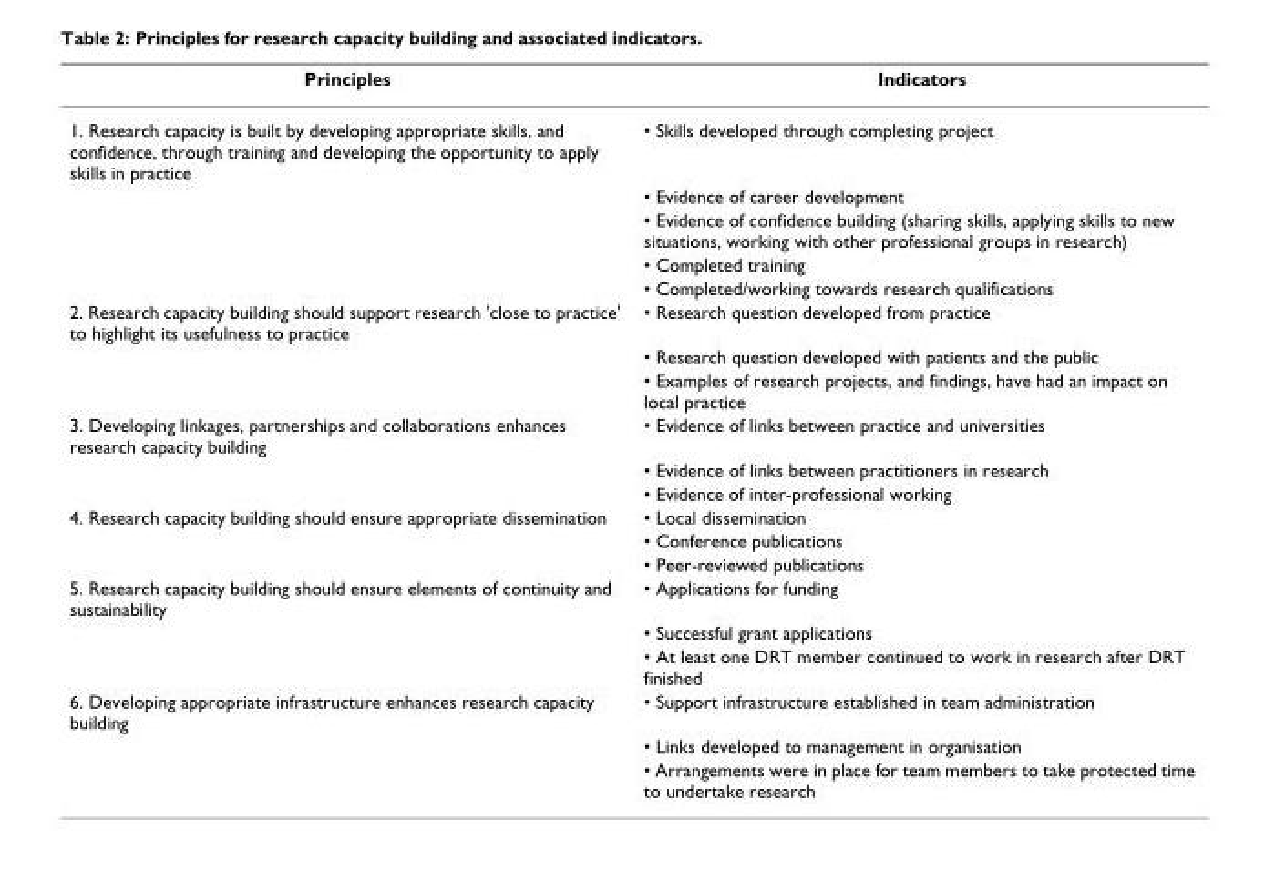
<table><thead><tr><td>Principles</td><td>Indicators</td></tr></thead><tbody><tr><td rowspan="5">1. Research capacity is built by developing appropriate skills, and confidence, through training and developing the opportunity to apply skills in practice</td><td>• Skills developed through completing project</td></tr><tr><td>• Evidence of career development</td></tr><tr><td>• Evidence of confidence building (sharing skills, applying skills to new situations, working with other professional groups in research)</td></tr><tr><td>• Completed training</td></tr><tr><td>• Completed/working towards research qualifications</td></tr><tr><td rowspan="3">2. Research capacity building should support research &#x27;close to practice&#x27; to highlight its usefulness to practice</td><td>• Research question developed from practice</td></tr><tr><td>• Research question developed with patients and the public</td></tr><tr><td>• Examples of research projects, and findings, have had an impact on local practice</td></tr><tr><td rowspan="3">3. Developing linkages, partnerships and collaborations enhances research capacity building</td><td>• Evidence of links between practice and universities</td></tr><tr><td>• Evidence of links between practitioners in research</td></tr><tr><td>• Evidence of inter-professional working</td></tr><tr><td rowspan="3">4. Research capacity building should ensure appropriate dissemination</td><td>• Local dissemination</td></tr><tr><td>• Conference publications</td></tr><tr><td>• Peer-reviewed publications</td></tr><tr><td rowspan="3">5. Research capacity building should ensure elements of continuity and sustainability</td><td>• Applications for funding</td></tr><tr><td>• Successful grant applications</td></tr><tr><td>• At least one DRT member continued to work in research after DRT finished</td></tr><tr><td rowspan="3">6. Developing appropriate infrastructure enhances research capacity building</td><td>• Support infrastructure established in team administration</td></tr><tr><td>• Links developed to management in organisation</td></tr><tr><td>• Arrangements were in place for team members to take protected time to undertake research</td></tr></tbody></table>